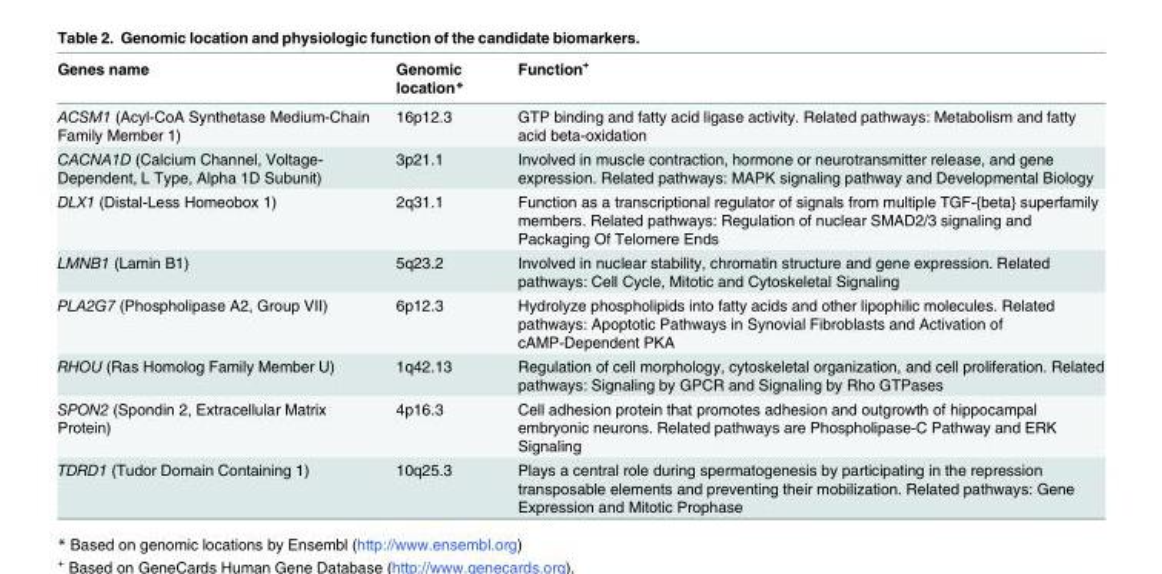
<table><thead><tr><td>Genes name</td><td>Genomic location*</td><td>Function<sup>+</sup></td></tr></thead><tbody><tr><td>ACSM1 (Acyl-CoA Synthetase Medium-Chain Family Member 1)</td><td>16p12.3</td><td>GTP binding and fatty acid ligase activity. Related pathways: Metabolism and fatty acid beta-oxidation</td></tr><tr><td>CACNA1D (Calcium Channel, Voltage- Dependent, L Type, Alpha 1D Subunit)</td><td>3p21.1</td><td>Involved in muscle contraction, hormone or neurotransmitter release, and gene expression. Related pathways: MAPK signaling pathway and Developmental Biology</td></tr><tr><td>DLX1 (Distal-Less Homeobox 1)</td><td>2q31.1</td><td>Function as a transcriptional regulator of signals from multiple TGF-{beta} superfamily members. Related pathways: Regulation of nuclear SMAD2/3 signaling and Packaging Of Telomere Ends</td></tr><tr><td>LMNB1 (Lamin B1)</td><td>5q23.2</td><td>Involved in nuclear stability, chromatin structure and gene expression. Related pathways: Cell Cycle, Mitotic and Cytoskeletal Signaling</td></tr><tr><td>PLA2G7 (Phospholipase A2, Group VII)</td><td>6p12.3</td><td>Hydrolyze phospholipids into fatty acids and other lipophilic molecules. Related pathways: Apoptotic Pathways in Synovial Fibroblasts and Activation of cAMP-Dependent PKA</td></tr><tr><td>RHOU (Ras Homolog Family Member U)</td><td>1q42.13</td><td>Regulation of cell morphology, cytoskeletal organization, and cell proliferation. Related pathways: Signaling by GPCR and Signaling by Rho GTPases</td></tr><tr><td>SPON2 (Spondin 2, Extracellular Matrix Protein)</td><td>4p16.3</td><td>Cell adhesion protein that promotes adhesion and outgrowth of hippocampal embryonic neurons. Related pathways are Phospholipase-C Pathway and ERK Signaling</td></tr><tr><td>TDRD1 (Tudor Domain Containing 1)</td><td>10q25.3</td><td>Plays a central role during spermatogenesis by participating in the repression transposable elements and preventing their mobilization. Related pathways: Gene Expression and Mitotic Prophase</td></tr></tbody></table>